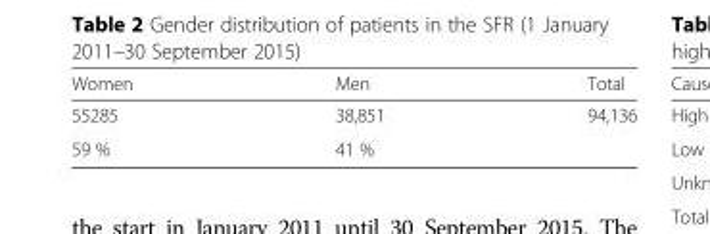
<table><thead><tr><td>Women</td><td>Men</td><td>Total</td></tr></thead><tbody><tr><td>55285</td><td>38,851</td><td>94,136</td></tr><tr><td>59 %</td><td>41 %</td><td></td></tr></tbody></table>